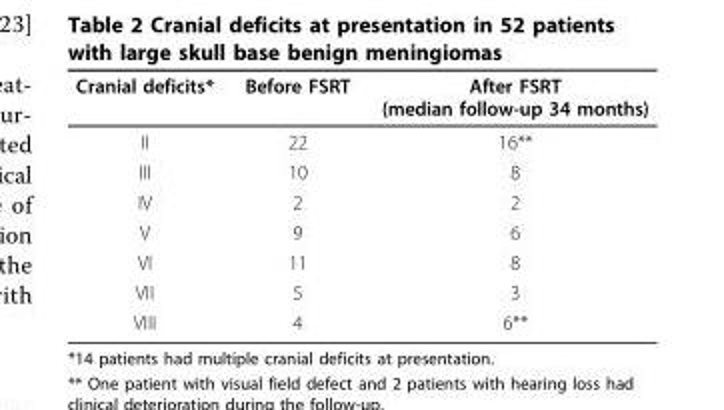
<table><thead><tr><td>Cranial deficits*</td><td>Before FSRT</td><td>After FSRT (median follow-up 34 months)</td></tr></thead><tbody><tr><td>II</td><td>22</td><td>16**</td></tr><tr><td>III</td><td>10</td><td>8</td></tr><tr><td>IV</td><td>2</td><td>2</td></tr><tr><td>V</td><td>9</td><td>6</td></tr><tr><td>VI</td><td>11</td><td>8</td></tr><tr><td>VII</td><td>5</td><td>3</td></tr><tr><td>VIII</td><td>4</td><td>6**</td></tr></tbody></table>